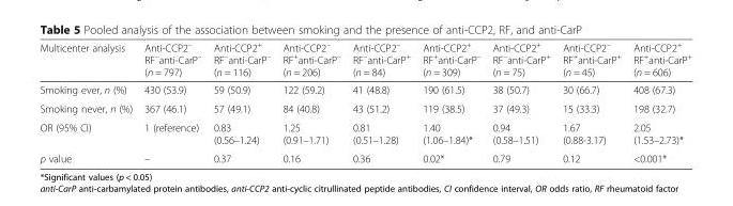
<table><thead><tr><td>Multicenter analysis</td><td>Anti-CCP2<sup>–</sup> RF<sup>–</sup>anti-CarP<sup>–</sup> (n = 797)</td><td>Anti-CCP2<sup>+</sup> RF<sup>–</sup>anti-CarP<sup>–</sup> (n = 116)</td><td>Anti-CCP2<sup>–</sup> RF<sup>+</sup>anti-CarP<sup>–</sup> (n = 206)</td><td>Anti-CCP2<sup>–</sup> RF<sup>–</sup>anti-CarP<sup>+</sup> (n = 84)</td><td>Anti-CCP2<sup>+</sup> RF<sup>+</sup>anti-CarP<sup>–</sup> (n = 309)</td><td>Anti-CCP2<sup>+</sup> RF<sup>–</sup>anti-CarP<sup>+</sup> (n = 75)</td><td>Anti-CCP2<sup>–</sup> RF<sup>+</sup>anti-CarP<sup>+</sup> (n = 45)</td><td>Anti-CCP2<sup>+</sup> RF<sup>+</sup>anti-CarP<sup>+</sup> (n = 606)</td></tr></thead><tbody><tr><td>Smoking ever, n (%)</td><td>430 (53.9)</td><td>59 (50.9)</td><td>122 (59.2)</td><td>41 (48.8)</td><td>190 (61.5)</td><td>38 (50.7)</td><td>30 (66.7)</td><td>408 (67.3)</td></tr><tr><td>Smoking never, n (%)</td><td>367 (46.1)</td><td>57 (49.1)</td><td>84 (40.8)</td><td>43 (51.2)</td><td>119 (38.5)</td><td>37 (49.3)</td><td>15 (33.3)</td><td>198 (32.7)</td></tr><tr><td>OR (95% CI)</td><td>1 (reference)</td><td>0.83 (0.56–1.24)</td><td>1.25 (0.91–1.71)</td><td>0.81 (0.51–1.28)</td><td>1.40 (1.06–1.84)*</td><td>0.94 (0.58–1.51)</td><td>1.67 (0.88-3.17)</td><td>2.05 (1.53–2.73)*</td></tr><tr><td>p value</td><td>–</td><td>0.37</td><td>0.16</td><td>0.36</td><td>0.02*</td><td>0.79</td><td>0.12</td><td>&lt;0.001*</td></tr></tbody></table>